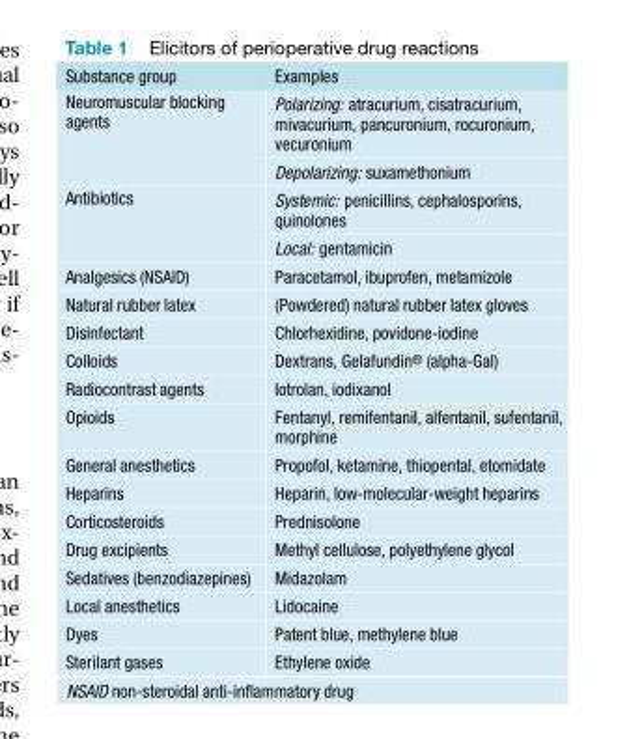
<table><thead><tr><td>Substance group</td><td>Examples</td></tr></thead><tbody><tr><td rowspan="2">Neuromuscular blocking agents</td><td>Polarizing: atracurium, cisatracurium, mivacurium, pancuronium, rocuronium, vecuronium</td></tr><tr><td>Depolarizing: suxamethonium</td></tr><tr><td rowspan="2">Antibiotics</td><td>Systemic: penicillins, cephalosporins, quinolones</td></tr><tr><td>Local: gentamicin</td></tr><tr><td>Analgesics (NSAID)</td><td>Paracetamol, ibuprofen, metamizole</td></tr><tr><td>Natural rubber latex</td><td>(Powdered) natural rubber latex gloves</td></tr><tr><td>Disinfectant</td><td>Chlorhexidine, povidone-iodine</td></tr><tr><td>Colloids</td><td>Dextrans, Gelafundin® (alpha-Gal)</td></tr><tr><td>Radiocontrast agents</td><td>Iotrolan, iodixanol</td></tr><tr><td>Opioids</td><td>Fentanyl, remifentanil, alfentanil, sufentanil, morphine</td></tr><tr><td>General anesthetics</td><td>Propofol, ketamine, thiopental, etomidate</td></tr><tr><td>Heparins</td><td>Heparin, low-molecular-weight heparins</td></tr><tr><td>Corticosteroids</td><td>Prednisolone</td></tr><tr><td>Drug excipients</td><td>Methyl cellulose, polyethylene glycol</td></tr><tr><td>Sedatives (benzodiazepines)</td><td>Midazolam</td></tr><tr><td>Local anesthetics</td><td>Lidocaine</td></tr><tr><td>Dyes</td><td>Patent blue, methylene blue</td></tr><tr><td>Sterilant gases</td><td>Ethylene oxide</td></tr></tbody></table>